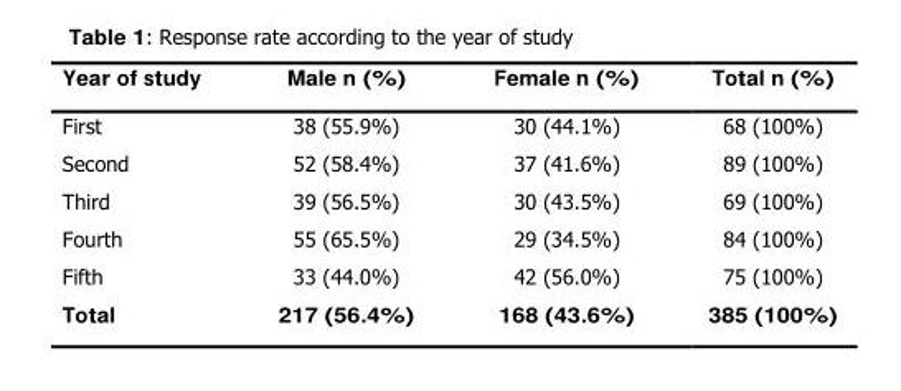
<table><thead><tr><td>Year of study</td><td>Male n (%)</td><td>Female n (%)</td><td>Total n (%)</td></tr></thead><tbody><tr><td>First</td><td>38 (55.9%)</td><td>30 (44.1%)</td><td>68 (100%)</td></tr><tr><td>Second</td><td>52 (58.4%)</td><td>37 (41.6%)</td><td>89 (100%)</td></tr><tr><td>Third</td><td>39 (56.5%)</td><td>30 (43.5%)</td><td>69 (100%)</td></tr><tr><td>Fourth</td><td>55 (65.5%)</td><td>29 (34.5%)</td><td>84 (100%)</td></tr><tr><td>Fifth</td><td>33 (44.0%)</td><td>42 (56.0%)</td><td>75 (100%)</td></tr><tr><td>Total</td><td>217 (56.4%)</td><td>168 (43.6%)</td><td>385 (100%)</td></tr></tbody></table>